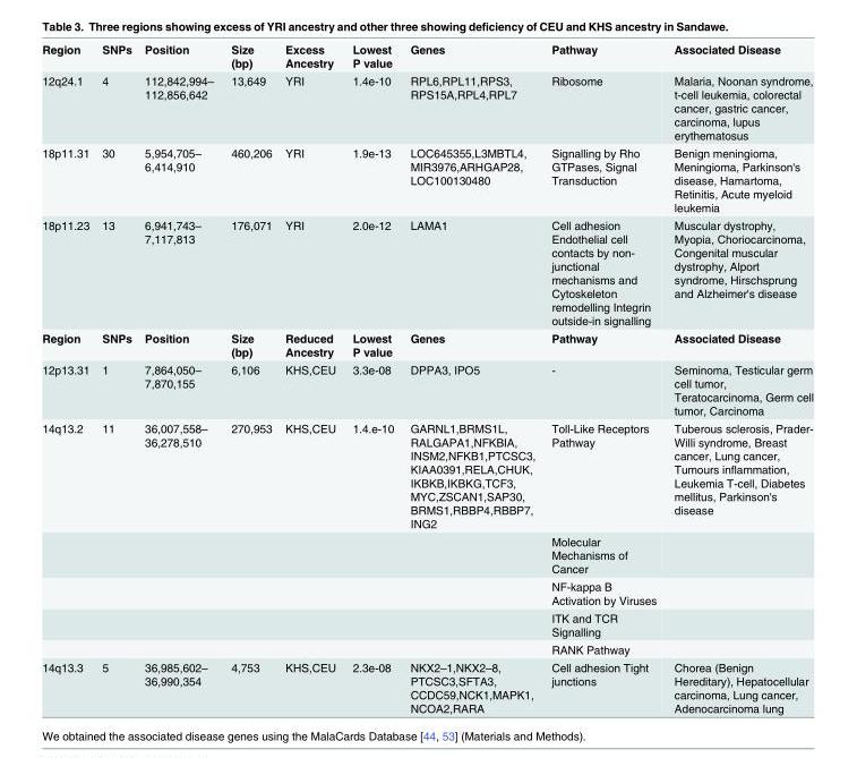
<table><tbody><tr><td>Region</td><td>SNPs</td><td>Position</td><td>Size (bp)</td><td>Excess Ancestry</td><td>Lowest P value</td><td>Genes</td><td>Pathway</td><td>Associated Disease</td></tr><tr><td>12q24.1</td><td>4</td><td>112,842,994– 112,856,642</td><td>13,649</td><td>YRI</td><td>1.4e-10</td><td>RPL6,RPL11,RPS3, RPS15A,RPL4,RPL7</td><td>Ribosome</td><td>Malaria, Noonan syndrome, t-cell leukemia, colorectal cancer, gastric cancer, carcinoma, lupus erythematosus</td></tr><tr><td>18p11.31</td><td>30</td><td>5,954,705– 6,414,910</td><td>460,206</td><td>YRI</td><td>1.9e-13</td><td>LOC645355,L3MBTL4, MIR3976,ARHGAP28, LOC100130480</td><td>Signalling by Rho GTPases, Signal Transduction</td><td>Benign meningioma, Meningioma, Parkinson&#x27;s disease, Hamartoma, Retinitis, Acute myeloid leukemia</td></tr><tr><td>18p11.23</td><td>13</td><td>6,941,743– 7,117,813</td><td>176,071</td><td>YRI</td><td>2.0e-12</td><td>LAMA1</td><td>Cell adhesion Endothelial cell contacts by non- junctional mechanisms and Cytoskeleton remodelling Integrin outside-in signalling</td><td>Muscular dystrophy, Myopia, Choriocarcinoma, Congenital muscular dystrophy, Alport syndrome, Hirschsprung and Alzheimer&#x27;s disease</td></tr><tr><td>Region</td><td>SNPs</td><td>Position</td><td>Size (bp)</td><td>Reduced Ancestry</td><td>Lowest P value</td><td>Genes</td><td>Pathway</td><td>Associated Disease</td></tr><tr><td>12p13.31</td><td>1</td><td>7,864,050– 7,870,155</td><td>6,106</td><td>KHS,CEU</td><td>3.3e-08</td><td>DPPA3, IPO5</td><td>-</td><td>Seminoma, Testicular germ cell tumor, Teratocarcinoma, Germ cell tumor, Carcinoma</td></tr><tr><td rowspan="5">14q13.2</td><td>11</td><td>36,007,558– 36,278,510</td><td>270,953</td><td>KHS,CEU</td><td>1.4.e-10</td><td>GARNL1,BRMS1L, RALGAPA1,NFKBIA, INSM2,NFKB1,PTCSC3, KIAA0391,RELA,CHUK, IKBKB,IKBKG,TCF3, MYC,ZSCAN1,SAP30, BRMS1,RBBP4,RBBP7, ING2</td><td>Toll-Like Receptors Pathway</td><td>Tuberous sclerosis, Prader- Willi syndrome, Breast cancer, Lung cancer, Tumours inflammation, Leukemia T-cell, Diabetes mellitus, Parkinson&#x27;s disease</td></tr><tr><td></td><td></td><td></td><td></td><td></td><td></td><td>Molecular Mechanisms of Cancer</td><td></td></tr><tr><td></td><td></td><td></td><td></td><td></td><td></td><td>NF-kappa B Activation by Viruses</td><td></td></tr><tr><td></td><td></td><td></td><td></td><td></td><td></td><td>ITK and TCR Signalling</td><td></td></tr><tr><td></td><td></td><td></td><td></td><td></td><td></td><td>RANK Pathway</td><td></td></tr><tr><td>14q13.3</td><td>5</td><td>36,985,602– 36,990,354</td><td>4,753</td><td>KHS,CEU</td><td>2.3e-08</td><td>NKX2–1,NKX2–8, PTCSC3,SFTA3, CCDC59,NCK1,MAPK1, NCOA2,RARA</td><td>Cell adhesion Tight junctions</td><td>Chorea (Benign Hereditary), Hepatocellular carcinoma, Lung cancer, Adenocarcinoma lung</td></tr></tbody></table>